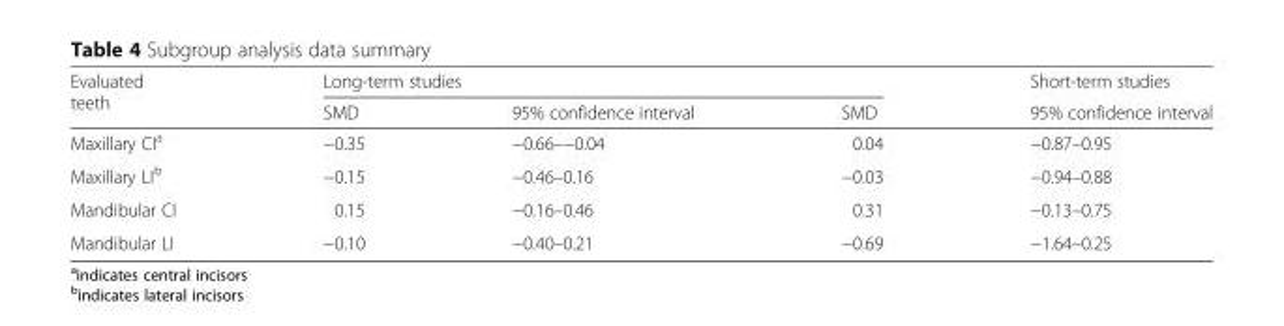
<table><thead><tr><td rowspan="2">Evaluated teeth</td><td colspan="3">Long-term studies</td><td rowspan="2">Short-term studies 95% confidence interval</td></tr><tr><td>SMD</td><td>95% confidence interval</td><td>SMD</td></tr></thead><tbody><tr><td>Maxillary CI<sup>a</sup></td><td>−0.35</td><td>−0.66–−0.04</td><td>0.04</td><td>−0.87–0.95</td></tr><tr><td>Maxillary LI<sup>b</sup></td><td>−0.15</td><td>−0.46–0.16</td><td>−0.03</td><td>−0.94–0.88</td></tr><tr><td>Mandibular CI</td><td>0.15</td><td>−0.16–0.46</td><td>0.31</td><td>−0.13–0.75</td></tr><tr><td>Mandibular LI</td><td>−0.10</td><td>−0.40–0.21</td><td>−0.69</td><td>−1.64–0.25</td></tr></tbody></table>